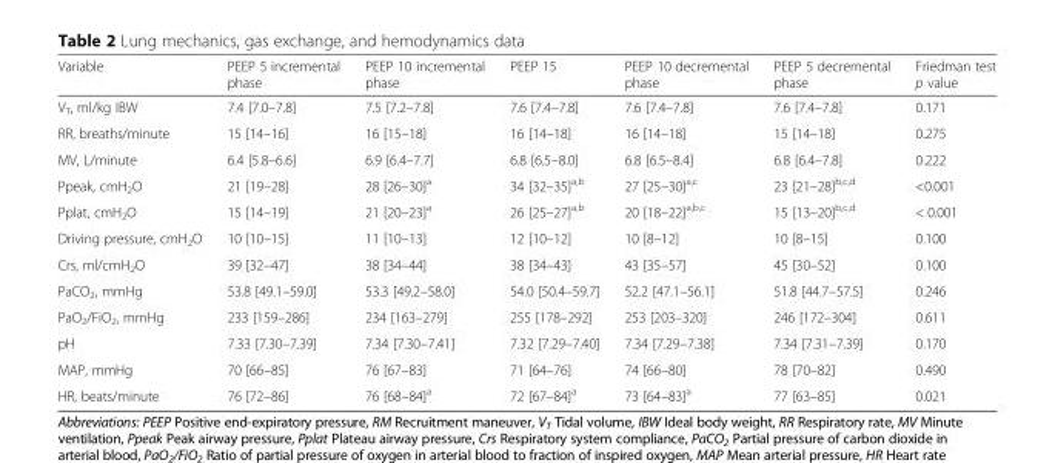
<table><thead><tr><td>Variable</td><td>PEEP 5 incremental phase</td><td>PEEP 10 incremental phase</td><td>PEEP 15</td><td>PEEP 10 decremental phase</td><td>PEEP 5 decremental phase</td><td>Friedman test p value</td></tr></thead><tbody><tr><td>V<sub>T</sub>, ml/kg IBW</td><td>7.4 [7.0–7.8]</td><td>7.5 [7.2–7.8]</td><td>7.6 [7.4–7.8]</td><td>7.6 [7.4–7.8]</td><td>7.6 [7.4–7.8]</td><td>0.171</td></tr><tr><td>RR, breaths/minute</td><td>15 [14–16]</td><td>16 [15–18]</td><td>16 [14–18]</td><td>16 [14–18]</td><td>15 [14–18]</td><td>0.275</td></tr><tr><td>MV, L/minute</td><td>6.4 [5.8–6.6]</td><td>6.9 [6.4–7.7]</td><td>6.8 [6.5–8.0]</td><td>6.8 [6.5–8.4]</td><td>6.8 [6.4–7.8]</td><td>0.222</td></tr><tr><td>Ppeak, cmH<sub>2</sub>O</td><td>21 [19–28]</td><td>28 [26–30]<sup>a</sup></td><td>34 [32–35]<sup>a,b</sup></td><td>27 [25–30]<sup>a,c</sup></td><td>23 [21–28]<sup>b,c,d</sup></td><td>&lt;0.001</td></tr><tr><td>Pplat, cmH<sub>2</sub>O</td><td>15 [14–19]</td><td>21 [20–23]<sup>a</sup></td><td>26 [25–27]<sup>a,b</sup></td><td>20 [18–22]<sup>a,b,c</sup></td><td>15 [13–20]<sup>b,c,d</sup></td><td>&lt; 0.001</td></tr><tr><td>Driving pressure, cmH<sub>2</sub>O</td><td>10 [10–15]</td><td>11 [10–13]</td><td>12 [10–12]</td><td>10 [8–12]</td><td>10 [8–15]</td><td>0.100</td></tr><tr><td>Crs, ml/cmH<sub>2</sub>O</td><td>39 [32–47]</td><td>38 [34–44]</td><td>38 [34–43]</td><td>43 [35–57]</td><td>45 [30–52]</td><td>0.100</td></tr><tr><td>PaCO<sub>2</sub>, mmHg</td><td>53.8 [49.1–59.0]</td><td>53.3 [49.2–58.0]</td><td>54.0 [50.4–59.7]</td><td>52.2 [47.1–56.1]</td><td>51.8 [44.7–57.5]</td><td>0.246</td></tr><tr><td>PaO<sub>2</sub>/FiO<sub>2</sub>, mmHg</td><td>233 [159–286]</td><td>234 [163–279]</td><td>255 [178–292]</td><td>253 [203–320]</td><td>246 [172–304]</td><td>0.611</td></tr><tr><td>pH</td><td>7.33 [7.30–7.39]</td><td>7.34 [7.30–7.41]</td><td>7.32 [7.29–7.40]</td><td>7.34 [7.29–7.38]</td><td>7.34 [7.31–7.39]</td><td>0.170</td></tr><tr><td>MAP, mmHg</td><td>70 [66–85]</td><td>76 [67–83]</td><td>71 [64–76]</td><td>74 [66–80]</td><td>78 [70–82]</td><td>0.490</td></tr><tr><td>HR, beats/minute</td><td>76 [72–86]</td><td>76 [68–84]<sup>a</sup></td><td>72 [67–84]<sup>a</sup></td><td>73 [64–83]<sup>a</sup></td><td>77 [63–85]</td><td>0.021</td></tr></tbody></table>